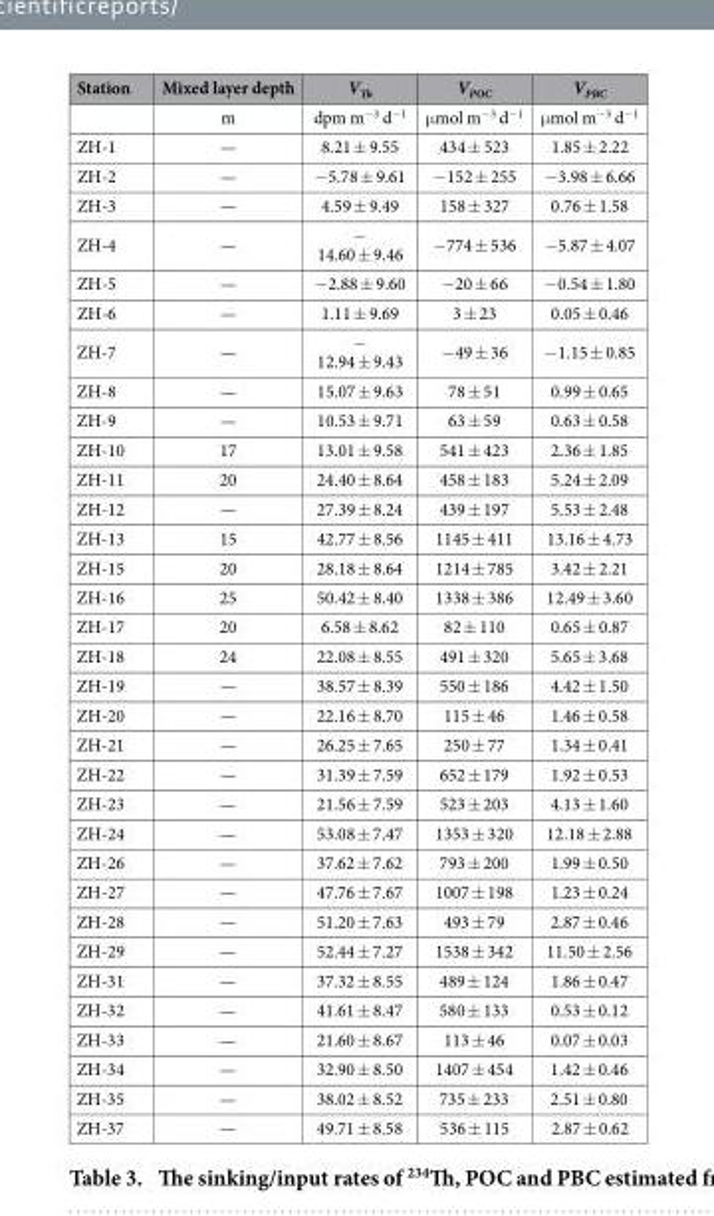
<table><thead><tr><td>Station</td><td>Mixed layer depth</td><td>V<sub>Th</sub></td><td>V<sub>POC</sub></td><td>V<sub>PBC</sub></td></tr></thead><tbody><tr><td></td><td>m</td><td>dpm m<sup>−3</sup> d<sup>−1</sup></td><td>μ mol m<sup>−3</sup> d<sup>−1</sup></td><td>μ mol m<sup>−3</sup> d<sup>−1</sup></td></tr><tr><td>ZH-1</td><td>—</td><td>8.21 ± 9.55</td><td>434 ± 523</td><td>1.85 ± 2.22</td></tr><tr><td>ZH-2</td><td>—</td><td>− 5.78 ± 9.61</td><td>− 152 ± 255</td><td>− 3.98 ± 6.66</td></tr><tr><td>ZH-3</td><td>—</td><td>4.59 ± 9.49</td><td>158 ± 327</td><td>0.76 ± 1.58</td></tr><tr><td>ZH-4</td><td>—</td><td>− 14.60 ± 9.46</td><td>− 774 ± 536</td><td>− 5.87 ± 4.07</td></tr><tr><td>ZH-5</td><td>—</td><td>− 2.88 ± 9.60</td><td>− 20 ± 66</td><td>− 0.54 ± 1.80</td></tr><tr><td>ZH-6</td><td>—</td><td>1.11 ± 9.69</td><td>3 ± 23</td><td>0.05 ± 0.46</td></tr><tr><td>ZH-7</td><td>—</td><td>− 12.94 ± 9.43</td><td>− 49 ± 36</td><td>− 1.15 ± 0.85</td></tr><tr><td>ZH-8</td><td>—</td><td>15.07 ± 9.63</td><td>78 ± 51</td><td>0.99 ± 0.65</td></tr><tr><td>ZH-9</td><td>—</td><td>10.53 ± 9.71</td><td>63 ± 59</td><td>0.63 ± 0.58</td></tr><tr><td>ZH-10</td><td>17</td><td>13.01 ± 9.58</td><td>541 ± 423</td><td>2.36 ± 1.85</td></tr><tr><td>ZH-11</td><td>20</td><td>24.40 ± 8.64</td><td>458 ± 183</td><td>5.24 ± 2.09</td></tr><tr><td>ZH-12</td><td>—</td><td>27.39 ± 8.24</td><td>439 ± 197</td><td>5.53 ± 2.48</td></tr><tr><td>ZH-13</td><td>15</td><td>42.77 ± 8.56</td><td>1145 ± 411</td><td>13.16 ± 4.73</td></tr><tr><td>ZH-15</td><td>20</td><td>28.18 ± 8.64</td><td>1214 ± 785</td><td>3.42 ± 2.21</td></tr><tr><td>ZH-16</td><td>25</td><td>50.42 ± 8.40</td><td>1338 ± 386</td><td>12.49 ± 3.60</td></tr><tr><td>ZH-17</td><td>20</td><td>6.58 ± 8.62</td><td>82 ± 110</td><td>0.65 ± 0.87</td></tr><tr><td>ZH-18</td><td>24</td><td>22.08 ± 8.55</td><td>491 ± 320</td><td>5.65 ± 3.68</td></tr><tr><td>ZH-19</td><td>—</td><td>38.57 ± 8.39</td><td>550 ± 186</td><td>4.42 ± 1.50</td></tr><tr><td>ZH-20</td><td>—</td><td>22.16 ± 8.70</td><td>115 ± 46</td><td>1.46 ± 0.58</td></tr><tr><td>ZH-21</td><td>—</td><td>26.25 ± 7.65</td><td>250 ± 77</td><td>1.34 ± 0.41</td></tr><tr><td>ZH-22</td><td>—</td><td>31.39 ± 7.59</td><td>652 ± 179</td><td>1.92 ± 0.53</td></tr><tr><td>ZH-23</td><td>—</td><td>21.56 ± 7.59</td><td>523 ± 203</td><td>4.13 ± 1.60</td></tr><tr><td>ZH-24</td><td>—</td><td>53.08 ± 7.47</td><td>1353 ± 320</td><td>12.18 ± 2.88</td></tr><tr><td>ZH-26</td><td>—</td><td>37.62 ± 7.62</td><td>793 ± 200</td><td>1.99 ± 0.50</td></tr><tr><td>ZH-27</td><td>—</td><td>47.76 ± 7.67</td><td>1007 ± 198</td><td>1.23 ± 0.24</td></tr><tr><td>ZH-28</td><td>—</td><td>51.20 ± 7.63</td><td>493 ± 79</td><td>2.87 ± 0.46</td></tr><tr><td>ZH-29</td><td>—</td><td>52.44 ± 7.27</td><td>1538 ± 342</td><td>11.50 ± 2.56</td></tr><tr><td>ZH-31</td><td>—</td><td>37.32 ± 8.55</td><td>489 ± 124</td><td>1.86 ± 0.47</td></tr><tr><td>ZH-32</td><td>—</td><td>41.61 ± 8.47</td><td>580 ± 133</td><td>0.53 ± 0.12</td></tr><tr><td>ZH-33</td><td>—</td><td>21.60 ± 8.67</td><td>113 ± 46</td><td>0.07 ± 0.03</td></tr><tr><td>ZH-34</td><td>—</td><td>32.90 ± 8.50</td><td>1407 ± 454</td><td>1.42 ± 0.46</td></tr><tr><td>ZH-35</td><td>—</td><td>38.02 ± 8.52</td><td>735 ± 233</td><td>2.51 ± 0.80</td></tr><tr><td>ZH-37</td><td>—</td><td>49.71 ± 8.58</td><td>536 ± 115</td><td>2.87 ± 0.62</td></tr></tbody></table>